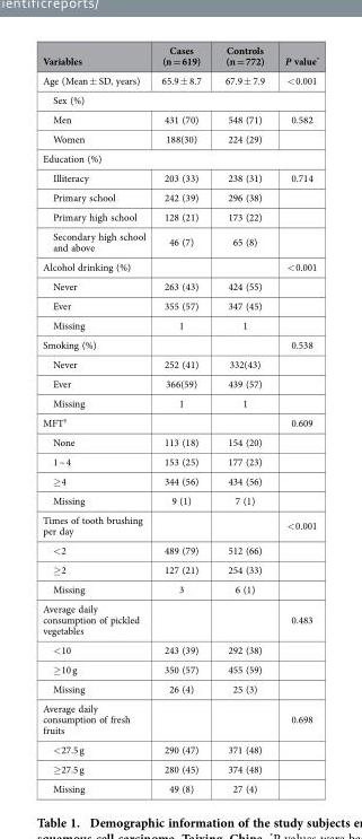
<table><thead><tr><td>Variables</td><td>Cases (n = 619)</td><td>Controls (n = 772)</td><td>P value*</td></tr></thead><tbody><tr><td>Age (Mean ± SD, years)</td><td>65.9 ± 8.7</td><td>67.9 ± 7.9</td><td>&lt; 0.001</td></tr><tr><td colspan="4">Sex (%)</td></tr><tr><td>Men</td><td>431 (70)</td><td>548 (71)</td><td>0.582</td></tr><tr><td>Women</td><td>188(30)</td><td>224 (29)</td><td></td></tr><tr><td colspan="4">Education (%)</td></tr><tr><td>Illiteracy</td><td>203 (33)</td><td>238 (31)</td><td>0.714</td></tr><tr><td>Primary school</td><td>242 (39)</td><td>296 (38)</td><td></td></tr><tr><td>Primary high school</td><td>128 (21)</td><td>173 (22)</td><td></td></tr><tr><td>Secondary high school and above</td><td>46 (7)</td><td>65 (8)</td><td></td></tr><tr><td>Alcohol drinking (%)</td><td></td><td></td><td>&lt; 0.001</td></tr><tr><td>Never</td><td>263 (43)</td><td>424 (55)</td><td></td></tr><tr><td>Ever</td><td>355 (57)</td><td>347 (45)</td><td></td></tr><tr><td>Missing</td><td>1</td><td>1</td><td></td></tr><tr><td>Smoking (%)</td><td></td><td></td><td>0.538</td></tr><tr><td>Never</td><td>252 (41)</td><td>332(43)</td><td></td></tr><tr><td>Ever</td><td>366(59)</td><td>439 (57)</td><td></td></tr><tr><td>Missing</td><td>1</td><td>1</td><td></td></tr><tr><td>MFT†</td><td></td><td></td><td>0.609</td></tr><tr><td>None</td><td>113 (18)</td><td>154 (20)</td><td></td></tr><tr><td>1 ~ 4</td><td>153 (25)</td><td>177 (23)</td><td></td></tr><tr><td>≥ 4</td><td>344 (56)</td><td>434 (56)</td><td></td></tr><tr><td>Missing</td><td>9 (1)</td><td>7 (1)</td><td></td></tr><tr><td>Times of tooth brushing per day</td><td></td><td></td><td>&lt; 0.001</td></tr><tr><td>&lt; 2</td><td>489 (79)</td><td>512 (66)</td><td></td></tr><tr><td>≥ 2</td><td>127 (21)</td><td>254 (33)</td><td></td></tr><tr><td>Missing</td><td>3</td><td>6 (1)</td><td></td></tr><tr><td>Average daily consumption of pickled vegetables</td><td></td><td></td><td>0.483</td></tr><tr><td>&lt; 10</td><td>243 (39)</td><td>292 (38)</td><td></td></tr><tr><td>≥ 10 g</td><td>350 (57)</td><td>455 (59)</td><td></td></tr><tr><td>Missing</td><td>26 (4)</td><td>25 (3)</td><td></td></tr><tr><td>Average daily consumption of fresh fruits</td><td></td><td></td><td>0.698</td></tr><tr><td>&lt; 27.5 g</td><td>290 (47)</td><td>371 (48)</td><td></td></tr><tr><td>≥ 27.5 g</td><td>280 (45)</td><td>374 (48)</td><td></td></tr><tr><td>Missing</td><td>49 (8)</td><td>27 (4)</td><td></td></tr></tbody></table>